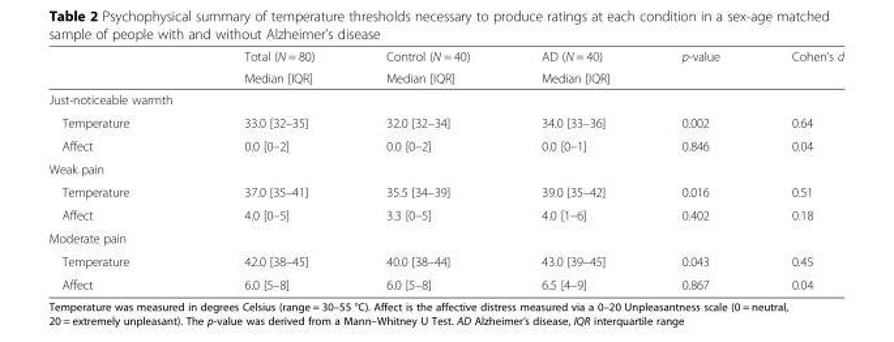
<table><thead><tr><td rowspan="2"></td><td rowspan="2">Total (N = 80) Median [IQR]</td><td rowspan="2">Control (N = 40) Median [IQR]</td><td rowspan="2">AD (N = 40) Median [IQR]</td><td rowspan="2">p-value</td><td rowspan="2">Cohen’s d</td></tr><tr></tr></thead><tbody><tr><td colspan="6">Just-noticeable warmth</td></tr><tr><td>Temperature</td><td>33.0 [32–35]</td><td>32.0 [32–34]</td><td>34.0 [33–36]</td><td>0.002</td><td>0.64</td></tr><tr><td>Affect</td><td>0.0 [0–2]</td><td>0.0 [0–2]</td><td>0.0 [0–1]</td><td>0.846</td><td>0.04</td></tr><tr><td colspan="6">Weak pain</td></tr><tr><td>Temperature</td><td>37.0 [35–41]</td><td>35.5 [34–39]</td><td>39.0 [35–42]</td><td>0.016</td><td>0.51</td></tr><tr><td>Affect</td><td>4.0 [0–5]</td><td>3.3 [0–5]</td><td>4.0 [1–6]</td><td>0.402</td><td>0.18</td></tr><tr><td colspan="6">Moderate pain</td></tr><tr><td>Temperature</td><td>42.0 [38–45]</td><td>40.0 [38–44]</td><td>43.0 [39–45]</td><td>0.043</td><td>0.45</td></tr><tr><td>Affect</td><td>6.0 [5–8]</td><td>6.0 [5–8]</td><td>6.5 [4–9]</td><td>0.867</td><td>0.04</td></tr></tbody></table>